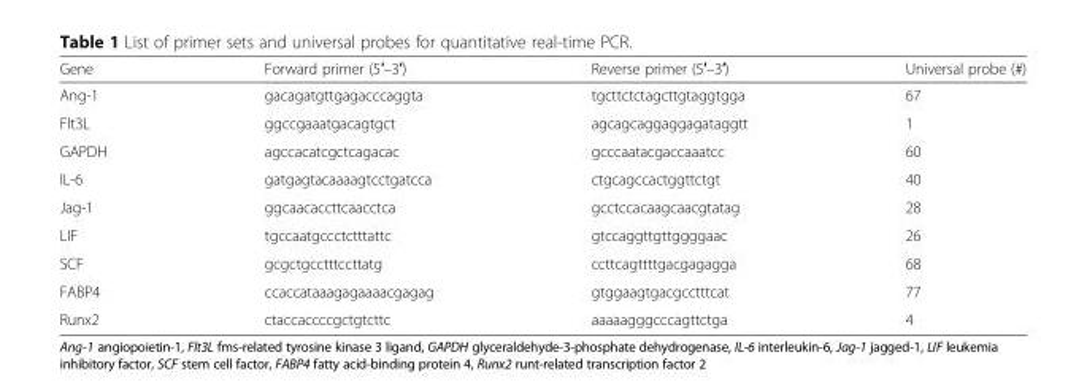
<table><thead><tr><td>Gene</td><td>Forward primer (5′–3′)</td><td>Reverse primer (5′–3′)</td><td>Universal probe (#)</td></tr></thead><tbody><tr><td>Ang-1</td><td>gacagatgttgagacccaggta</td><td>tgcttctctagcttgtaggtgga</td><td>67</td></tr><tr><td>Flt3L</td><td>ggccgaaatgacagtgct</td><td>agcagcaggaggagataggtt</td><td>1</td></tr><tr><td>GAPDH</td><td>agccacatcgctcagacac</td><td>gcccaatacgaccaaatcc</td><td>60</td></tr><tr><td>IL-6</td><td>gatgagtacaaaagtcctgatcca</td><td>ctgcagccactggttctgt</td><td>40</td></tr><tr><td>Jag-1</td><td>ggcaacaccttcaacctca</td><td>gcctccacaagcaacgtatag</td><td>28</td></tr><tr><td>LIF</td><td>tgccaatgccctctttattc</td><td>gtccaggttgttggggaac</td><td>26</td></tr><tr><td>SCF</td><td>gcgctgcctttccttatg</td><td>ccttcagttttgacgagagga</td><td>68</td></tr><tr><td>FABP4</td><td>ccaccataaagagaaaacgagag</td><td>gtggaagtgacgcctttcat</td><td>77</td></tr><tr><td>Runx2</td><td>ctaccaccccgctgtcttc</td><td>aaaaagggcccagttctga</td><td>4</td></tr></tbody></table>